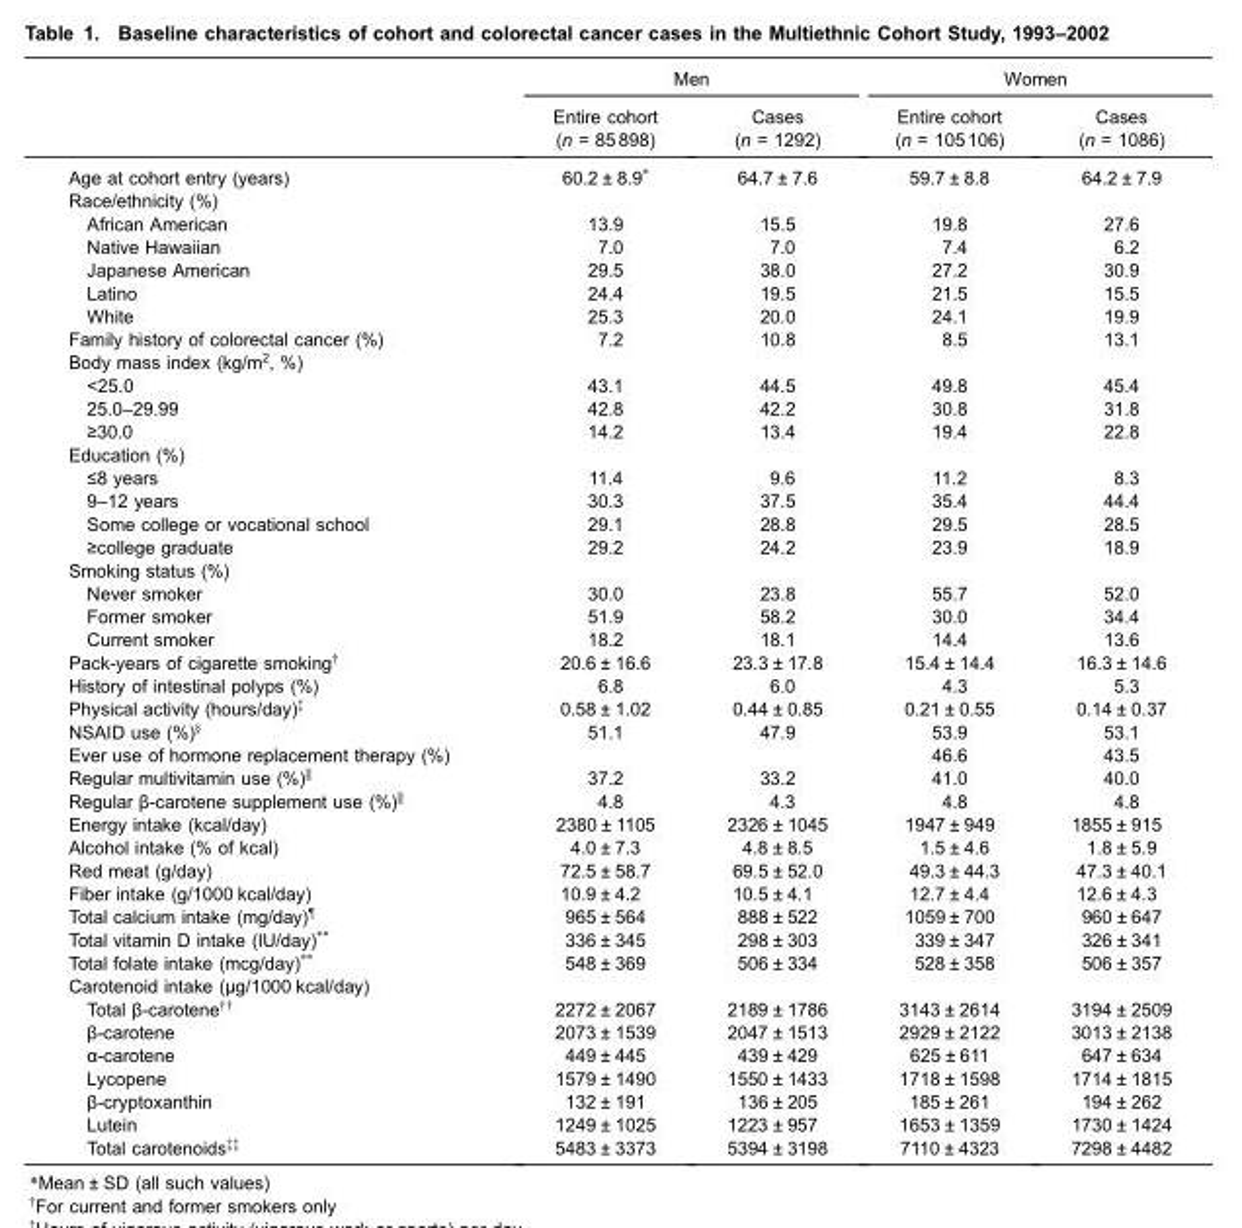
<table><thead><tr><td rowspan="2"></td><td colspan="2">Men</td><td colspan="2">Women</td></tr><tr><td>Entire cohort (n = 85 898)</td><td>Cases (n = 1292)</td><td>Entire cohort (n = 105 106)</td><td>Cases (n = 1086)</td></tr></thead><tbody><tr><td>Age at cohort entry (years)</td><td>60.2 ± 8.9*</td><td>64.7 ± 7.6</td><td>59.7 ± 8.8</td><td>64.2 ± 7.9</td></tr><tr><td colspan="5">Race/ethnicity (%)</td></tr><tr><td>African American</td><td>13.9</td><td>15.5</td><td>19.8</td><td>27.6</td></tr><tr><td>Native Hawaiian</td><td>7.0</td><td>7.0</td><td>7.4</td><td>6.2</td></tr><tr><td>Japanese American</td><td>29.5</td><td>38.0</td><td>27.2</td><td>30.9</td></tr><tr><td>Latino</td><td>24.4</td><td>19.5</td><td>21.5</td><td>15.5</td></tr><tr><td>White</td><td>25.3</td><td>20.0</td><td>24.1</td><td>19.9</td></tr><tr><td>Family history of colorectal cancer (%)</td><td>7.2</td><td>10.8</td><td>8.5</td><td>13.1</td></tr><tr><td colspan="5">Body mass index (kg/m<sup>2</sup>, %)</td></tr><tr><td>&lt;25.0</td><td>43.1</td><td>44.5</td><td>49.8</td><td>45.4</td></tr><tr><td>25.0–29.99</td><td>42.8</td><td>42.2</td><td>30.8</td><td>31.8</td></tr><tr><td>≥30.0</td><td>14.2</td><td>13.4</td><td>19.4</td><td>22.8</td></tr><tr><td colspan="5">Education (%)</td></tr><tr><td>≤8 years</td><td>11.4</td><td>9.6</td><td>11.2</td><td>8.3</td></tr><tr><td>9–12 years</td><td>30.3</td><td>37.5</td><td>35.4</td><td>44.4</td></tr><tr><td>Some college or vocational school</td><td>29.1</td><td>28.8</td><td>29.5</td><td>28.5</td></tr><tr><td>≥college graduate</td><td>29.2</td><td>24.2</td><td>23.9</td><td>18.9</td></tr><tr><td colspan="5">Smoking status (%)</td></tr><tr><td>Never smoker</td><td>30.0</td><td>23.8</td><td>55.7</td><td>52.0</td></tr><tr><td>Former smoker</td><td>51.9</td><td>58.2</td><td>30.0</td><td>34.4</td></tr><tr><td>Current smoker</td><td>18.2</td><td>18.1</td><td>14.4</td><td>13.6</td></tr><tr><td>Pack-years of cigarette smoking<sup>†</sup></td><td>20.6 ± 16.6</td><td>23.3 ± 17.8</td><td>15.4 ± 14.4</td><td>16.3 ± 14.6</td></tr><tr><td>History of intestinal polyps (%)</td><td>6.8</td><td>6.0</td><td>4.3</td><td>5.3</td></tr><tr><td>Physical activity (hours/day)<sup>‡</sup></td><td>0.58 ± 1.02</td><td>0.44 ± 0.85</td><td>0.21 ± 0.55</td><td>0.14 ± 0.37</td></tr><tr><td>NSAID use (%)<sup>§</sup></td><td>51.1</td><td>47.9</td><td>53.9</td><td>53.1</td></tr><tr><td>Ever use of hormone replacement therapy (%)</td><td></td><td></td><td>46.6</td><td>43.5</td></tr><tr><td>Regular multivitamin use (%)<sup>||</sup></td><td>37.2</td><td>33.2</td><td>41.0</td><td>40.0</td></tr><tr><td>Regular β-carotene supplement use (%)<sup>||</sup></td><td>4.8</td><td>4.3</td><td>4.8</td><td>4.8</td></tr><tr><td>Energy intake (kcal/day)</td><td>2380 ± 1105</td><td>2326 ± 1045</td><td>1947 ± 949</td><td>1855 ± 915</td></tr><tr><td>Alcohol intake (% of kcal)</td><td>4.0 ± 7.3</td><td>4.8 ± 8.5</td><td>1.5 ± 4.6</td><td>1.8 ± 5.9</td></tr><tr><td>Red meat (g/day)</td><td>72.5 ± 58.7</td><td>69.5 ± 52.0</td><td>49.3 ± 44.3</td><td>47.3 ± 40.1</td></tr><tr><td>Fiber intake (g/1000 kcal/day)</td><td>10.9 ± 4.2</td><td>10.5 ± 4.1</td><td>12.7 ± 4.4</td><td>12.6 ± 4.3</td></tr><tr><td>Total calcium intake (mg/day)<sup>¶</sup></td><td>965 ± 564</td><td>888 ± 522</td><td>1059 ± 700</td><td>960 ± 647</td></tr><tr><td>Total vitamin D intake (IU/day)**</td><td>336 ± 345</td><td>298 ± 303</td><td>339 ± 347</td><td>326 ± 341</td></tr><tr><td>Total folate intake (mcg/day)**</td><td>548 ± 369</td><td>506 ± 334</td><td>528 ± 358</td><td>506 ± 357</td></tr><tr><td colspan="5">Carotenoid intake (μg/1000 kcal/day)</td></tr><tr><td>Total β-carotene<sup>††</sup></td><td>2272 ± 2067</td><td>2189 ± 1786</td><td>3143 ± 2614</td><td>3194 ± 2509</td></tr><tr><td>β-carotene</td><td>2073 ± 1539</td><td>2047 ± 1513</td><td>2929 ± 2122</td><td>3013 ± 2138</td></tr><tr><td>α-carotene</td><td>449 ± 445</td><td>439 ± 429</td><td>625 ± 611</td><td>647 ± 634</td></tr><tr><td>Lycopene</td><td>1579 ± 1490</td><td>1550 ± 1433</td><td>1718 ± 1598</td><td>1714 ± 1815</td></tr><tr><td>β-cryptoxanthin</td><td>132 ± 191</td><td>136 ± 205</td><td>185 ± 261</td><td>194 ± 262</td></tr><tr><td>Lutein</td><td>1249 ± 1025</td><td>1223 ± 957</td><td>1653 ± 1359</td><td>1730 ± 1424</td></tr><tr><td>Total carotenoids<sup>‡‡</sup></td><td>5483 ± 3373</td><td>5394 ± 3198</td><td>7110 ± 4323</td><td>7298 ± 4482</td></tr></tbody></table>